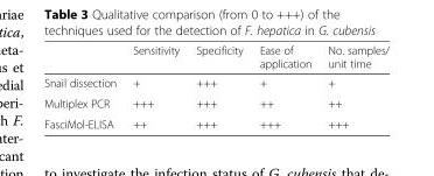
<table><thead><tr><td></td><td>Sensitivity</td><td>Specificity</td><td>Ease of application</td><td>No. samples/ unit time</td></tr></thead><tbody><tr><td>Snail dissection</td><td>+</td><td>+++</td><td>+</td><td>+</td></tr><tr><td>Multiplex PCR</td><td>+++</td><td>+++</td><td>++</td><td>++</td></tr><tr><td>FasciMol-ELISA</td><td>++</td><td>+++</td><td>+++</td><td>+++</td></tr></tbody></table>